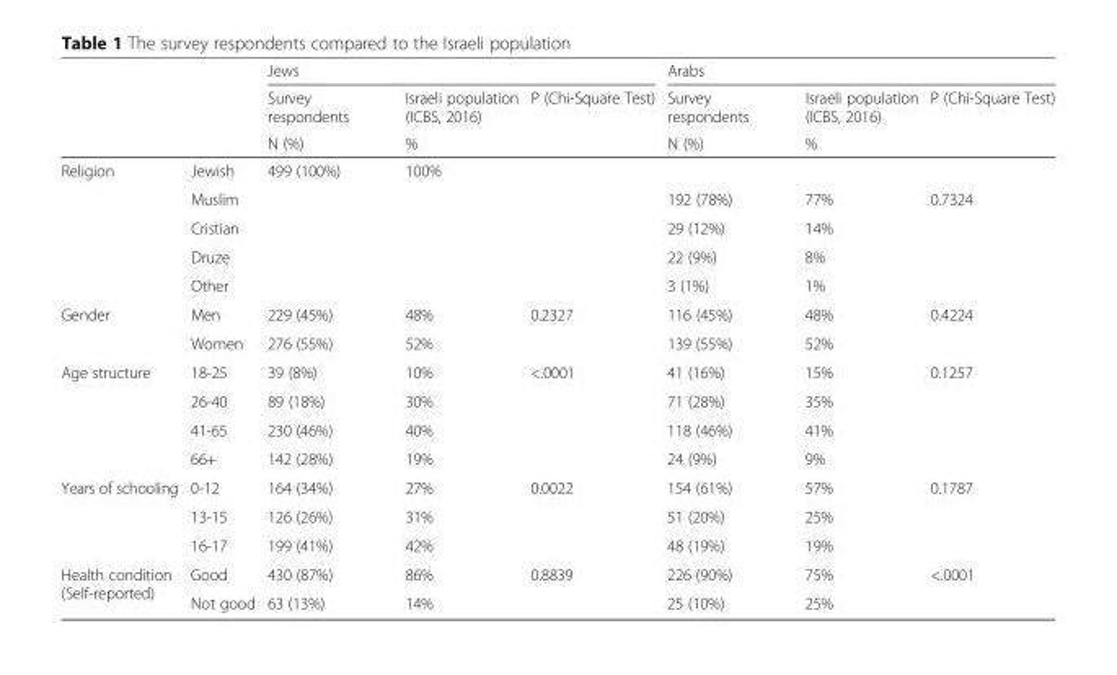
<table><thead><tr><td rowspan="3"></td><td rowspan="3"></td><td colspan="3">Jews</td><td colspan="3">Arabs</td></tr><tr><td rowspan="2">Survey respondents N (%)</td><td rowspan="2">Israeli population (ICBS, 2016) %</td><td rowspan="2">P (Chi-Square Test)</td><td rowspan="2">Survey respondents N (%)</td><td rowspan="2">Israeli population (ICBS, 2016) %</td><td rowspan="2">P (Chi-Square Test)</td></tr><tr></tr></thead><tbody><tr><td rowspan="5">Religion</td><td>Jewish</td><td>499 (100%)</td><td>100%</td><td></td><td></td><td></td><td></td></tr><tr><td>Muslim</td><td></td><td></td><td rowspan="4"></td><td>192 (78%)</td><td>77%</td><td rowspan="4">0.7324</td></tr><tr><td>Cristian</td><td></td><td></td><td>29 (12%)</td><td>14%</td></tr><tr><td>Druze</td><td></td><td></td><td>22 (9%)</td><td>8%</td></tr><tr><td>Other</td><td></td><td></td><td>3 (1%)</td><td>1%</td></tr><tr><td rowspan="2">Gender</td><td>Men</td><td>229 (45%)</td><td>48%</td><td rowspan="2">0.2327</td><td>116 (45%)</td><td>48%</td><td rowspan="2">0.4224</td></tr><tr><td>Women</td><td>276 (55%)</td><td>52%</td><td>139 (55%)</td><td>52%</td></tr><tr><td rowspan="4">Age structure</td><td>18-25</td><td>39 (8%)</td><td>10%</td><td rowspan="4">&lt;.0001</td><td>41 (16%)</td><td>15%</td><td rowspan="4">0.1257</td></tr><tr><td>26-40</td><td>89 (18%)</td><td>30%</td><td>71 (28%)</td><td>35%</td></tr><tr><td>41-65</td><td>230 (46%)</td><td>40%</td><td>118 (46%)</td><td>41%</td></tr><tr><td>66+</td><td>142 (28%)</td><td>19%</td><td>24 (9%)</td><td>9%</td></tr><tr><td rowspan="3">Years of schooling</td><td>0-12</td><td>164 (34%)</td><td>27%</td><td rowspan="3">0.0022</td><td>154 (61%)</td><td>57%</td><td rowspan="3">0.1787</td></tr><tr><td>13-15</td><td>126 (26%)</td><td>31%</td><td>51 (20%)</td><td>25%</td></tr><tr><td>16-17</td><td>199 (41%)</td><td>42%</td><td>48 (19%)</td><td>19%</td></tr><tr><td rowspan="2">Health condition (Self-reported)</td><td>Good</td><td>430 (87%)</td><td>86%</td><td rowspan="2">0.8839</td><td>226 (90%)</td><td>75%</td><td rowspan="2">&lt;.0001</td></tr><tr><td>Not good</td><td>63 (13%)</td><td>14%</td><td>25 (10%)</td><td>25%</td></tr></tbody></table>